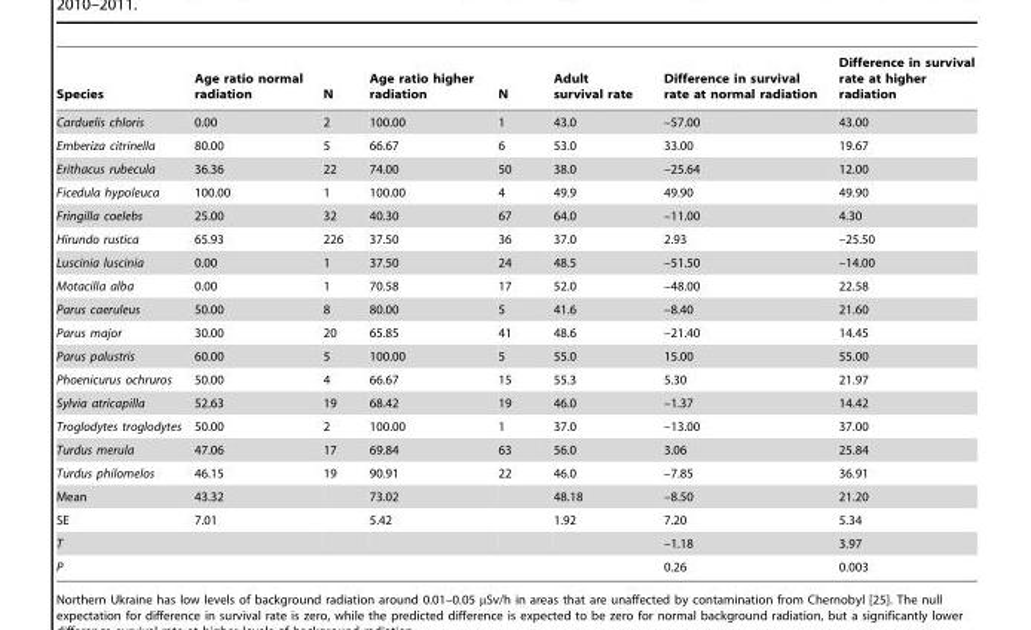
<table><thead><tr><td>Species</td><td>Age ratio normal radiation</td><td>N</td><td>Age ratio higher radiation</td><td>N</td><td>Adult survival rate</td><td>Difference in survival rate at normal radiation</td><td>Difference in survival rate at higher radiation</td></tr></thead><tbody><tr><td>Carduelis chloris</td><td>0.00</td><td>2</td><td>100.00</td><td>1</td><td>43.0</td><td>–57.00</td><td>43.00</td></tr><tr><td>Emberiza citrinella</td><td>80.00</td><td>5</td><td>66.67</td><td>6</td><td>53.0</td><td>33.00</td><td>19.67</td></tr><tr><td>Erithacus rubecula</td><td>36.36</td><td>22</td><td>74.00</td><td>50</td><td>38.0</td><td>–25.64</td><td>12.00</td></tr><tr><td>Ficedula hypoleuca</td><td>100.00</td><td>1</td><td>100.00</td><td>4</td><td>49.9</td><td>49.90</td><td>49.90</td></tr><tr><td>Fringilla coelebs</td><td>25.00</td><td>32</td><td>40.30</td><td>67</td><td>64.0</td><td>–11.00</td><td>4.30</td></tr><tr><td>Hirundo rustica</td><td>65.93</td><td>226</td><td>37.50</td><td>36</td><td>37.0</td><td>2.93</td><td>–25.50</td></tr><tr><td>Luscinia luscinia</td><td>0.00</td><td>1</td><td>37.50</td><td>24</td><td>48.5</td><td>–51.50</td><td>–14.00</td></tr><tr><td>Motacilla alba</td><td>0.00</td><td>1</td><td>70.58</td><td>17</td><td>52.0</td><td>–48.00</td><td>22.58</td></tr><tr><td>Parus caeruleus</td><td>50.00</td><td>8</td><td>80.00</td><td>5</td><td>41.6</td><td>–8.40</td><td>21.60</td></tr><tr><td>Parus major</td><td>30.00</td><td>20</td><td>65.85</td><td>41</td><td>48.6</td><td>–21.40</td><td>14.45</td></tr><tr><td>Parus palustris</td><td>60.00</td><td>5</td><td>100.00</td><td>5</td><td>55.0</td><td>15.00</td><td>55.00</td></tr><tr><td>Phoenicurus ochruros</td><td>50.00</td><td>4</td><td>66.67</td><td>15</td><td>55.3</td><td>5.30</td><td>21.97</td></tr><tr><td>Sylvia atricapilla</td><td>52.63</td><td>19</td><td>68.42</td><td>19</td><td>46.0</td><td>–1.37</td><td>14.42</td></tr><tr><td>Troglodytes troglodytes</td><td>50.00</td><td>2</td><td>100.00</td><td>1</td><td>37.0</td><td>–13.00</td><td>37.00</td></tr><tr><td>Turdus merula</td><td>47.06</td><td>17</td><td>69.84</td><td>63</td><td>56.0</td><td>3.06</td><td>25.84</td></tr><tr><td>Turdus philomelos</td><td>46.15</td><td>19</td><td>90.91</td><td>22</td><td>46.0</td><td>–7.85</td><td>36.91</td></tr><tr><td>Mean</td><td>43.32</td><td></td><td>73.02</td><td></td><td>48.18</td><td>–8.50</td><td>21.20</td></tr><tr><td>SE</td><td>7.01</td><td></td><td>5.42</td><td></td><td>1.92</td><td>7.20</td><td>5.34</td></tr><tr><td>T</td><td></td><td></td><td></td><td></td><td></td><td>–1.18</td><td>3.97</td></tr><tr><td>P</td><td></td><td></td><td></td><td></td><td></td><td>0.26</td><td>0.003</td></tr></tbody></table>